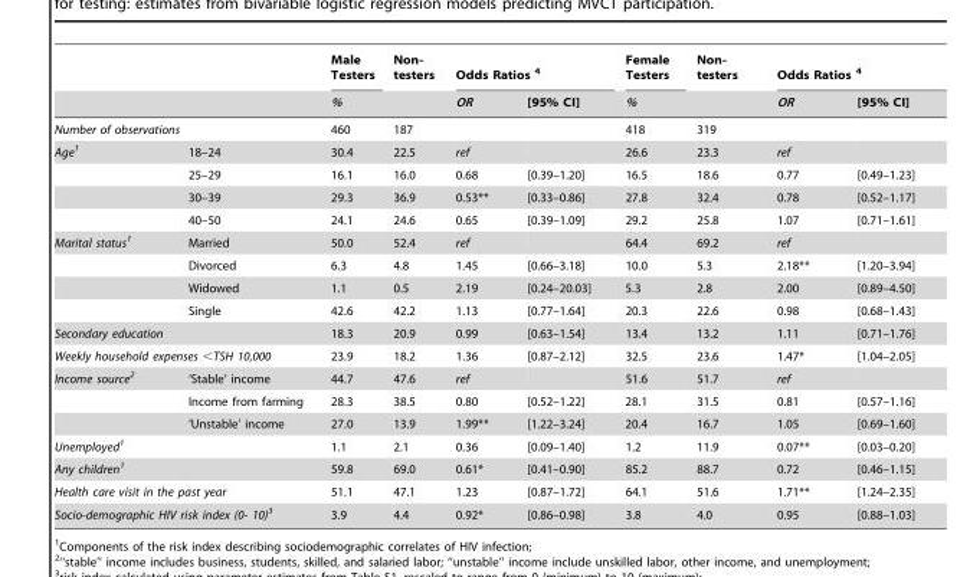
<table><thead><tr><td rowspan="2"></td><td rowspan="2"></td><td>Male Testers</td><td>Non- testers</td><td colspan="2">Odds Ratios 4</td><td>Female Testers</td><td>Non- testers</td><td colspan="2">Odds Ratios 4</td></tr><tr><td colspan="2">%</td><td>OR</td><td>[95% CI]</td><td colspan="2">%</td><td>OR</td><td>[95% CI]</td></tr></thead><tbody><tr><td colspan="2">Number of observations</td><td>460</td><td>187</td><td></td><td></td><td>418</td><td>319</td><td></td><td></td></tr><tr><td rowspan="4">Age1</td><td>18–24</td><td>30.4</td><td>22.5</td><td>ref</td><td></td><td>26.6</td><td>23.3</td><td>ref</td><td></td></tr><tr><td>25–29</td><td>16.1</td><td>16.0</td><td>0.68</td><td>[0.39–1.20]</td><td>16.5</td><td>18.6</td><td>0.77</td><td>[0.49–1.23]</td></tr><tr><td>30–39</td><td>29.3</td><td>36.9</td><td>0.53**</td><td>[0.33–0.86]</td><td>27.8</td><td>32.4</td><td>0.78</td><td>[0.52–1.17]</td></tr><tr><td>40–50</td><td>24.1</td><td>24.6</td><td>0.65</td><td>[0.39–1.09]</td><td>29.2</td><td>25.8</td><td>1.07</td><td>[0.71–1.61]</td></tr><tr><td rowspan="4">Marital status1</td><td>Married</td><td>50.0</td><td>52.4</td><td>ref</td><td></td><td>64.4</td><td>69.2</td><td>ref</td><td></td></tr><tr><td>Divorced</td><td>6.3</td><td>4.8</td><td>1.45</td><td>[0.66–3.18]</td><td>10.0</td><td>5.3</td><td>2.18**</td><td>[1.20–3.94]</td></tr><tr><td>Widowed</td><td>1.1</td><td>0.5</td><td>2.19</td><td>[0.24–20.03]</td><td>5.3</td><td>2.8</td><td>2.00</td><td>[0.89–4.50]</td></tr><tr><td>Single</td><td>42.6</td><td>42.2</td><td>1.13</td><td>[0.77–1.64]</td><td>20.3</td><td>22.6</td><td>0.98</td><td>[0.68–1.43]</td></tr><tr><td colspan="2">Secondary education</td><td>18.3</td><td>20.9</td><td>0.99</td><td>[0.63–1.54]</td><td>13.4</td><td>13.2</td><td>1.11</td><td>[0.71–1.76]</td></tr><tr><td colspan="2">Weekly household expenses &lt;TSH 10,000</td><td>23.9</td><td>18.2</td><td>1.36</td><td>[0.87–2.12]</td><td>32.5</td><td>23.6</td><td>1.47*</td><td>[1.04–2.05]</td></tr><tr><td rowspan="3">Income source2</td><td>‘Stable’ income</td><td>44.7</td><td>47.6</td><td>ref</td><td></td><td>51.6</td><td>51.7</td><td>ref</td><td></td></tr><tr><td>Income from farming</td><td>28.3</td><td>38.5</td><td>0.80</td><td>[0.52–1.22]</td><td>28.1</td><td>31.5</td><td>0.81</td><td>[0.57–1.16]</td></tr><tr><td>‘Unstable’ income</td><td>27.0</td><td>13.9</td><td>1.99**</td><td>[1.22–3.24]</td><td>20.4</td><td>16.7</td><td>1.05</td><td>[0.69–1.60]</td></tr><tr><td>Unemployed1</td><td></td><td>1.1</td><td>2.1</td><td>0.36</td><td>[0.09–1.40]</td><td>1.2</td><td>11.9</td><td>0.07**</td><td>[0.03–0.20]</td></tr><tr><td>Any children1</td><td></td><td>59.8</td><td>69.0</td><td>0.61*</td><td>[0.41–0.90]</td><td>85.2</td><td>88.7</td><td>0.72</td><td>[0.46–1.15]</td></tr><tr><td colspan="2">Health care visit in the past year</td><td>51.1</td><td>47.1</td><td>1.23</td><td>[0.87–1.72]</td><td>64.1</td><td>51.6</td><td>1.71**</td><td>[1.24–2.35]</td></tr><tr><td colspan="2">Socio-demographic HIV risk index (0- 10)3</td><td>3.9</td><td>4.4</td><td>0.92*</td><td>[0.86–0.98]</td><td>3.8</td><td>4.0</td><td>0.95</td><td>[0.88–1.03]</td></tr></tbody></table>